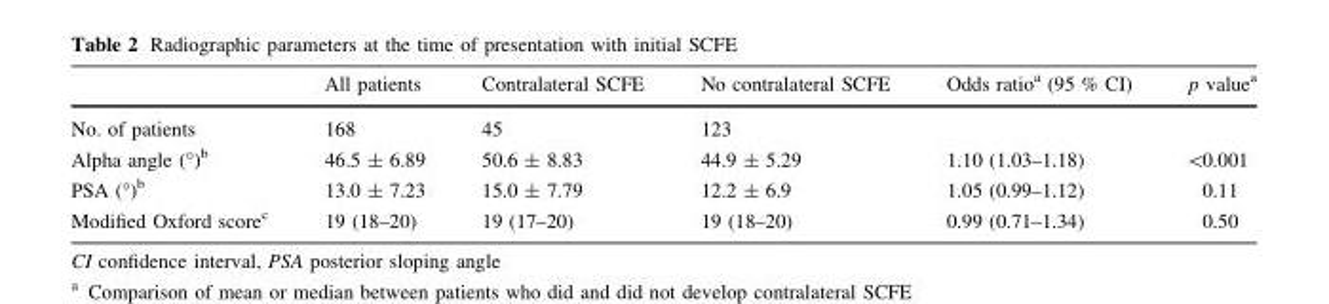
<table><thead><tr><td></td><td>All patients</td><td>Contralateral SCFE</td><td>No contralateral SCFE</td><td>Odds ratio<sup>a</sup> (95 % CI)</td><td>p value<sup>a</sup></td></tr></thead><tbody><tr><td>No. of patients</td><td>168</td><td>45</td><td>123</td><td></td><td></td></tr><tr><td>Alpha angle (°)<sup>b</sup></td><td>46.5 ± 6.89</td><td>50.6 ± 8.83</td><td>44.9 ± 5.29</td><td>1.10 (1.03–1.18)</td><td>&lt;0.001</td></tr><tr><td>PSA (°)<sup>b</sup></td><td>13.0 ± 7.23</td><td>15.0 ± 7.79</td><td>12.2 ± 6.9</td><td>1.05 (0.99–1.12)</td><td>0.11</td></tr><tr><td>Modified Oxford score<sup>c</sup></td><td>19 (18–20)</td><td>19 (17–20)</td><td>19 (18–20)</td><td>0.99 (0.71–1.34)</td><td>0.50</td></tr></tbody></table>